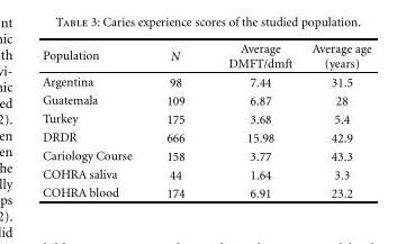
<table><thead><tr><td>Population</td><td>N</td><td>Average DMFT/dmft</td><td>Average age (years)</td></tr></thead><tbody><tr><td>Argentina</td><td>98</td><td>7.44</td><td>31.5</td></tr><tr><td>Guatemala</td><td>109</td><td>6.87</td><td>28</td></tr><tr><td>Turkey</td><td>175</td><td>3.68</td><td>5.4</td></tr><tr><td>DRDR</td><td>666</td><td>15.98</td><td>42.9</td></tr><tr><td>Cariology Course</td><td>158</td><td>3.77</td><td>43.3</td></tr><tr><td>COHRA saliva</td><td>44</td><td>1.64</td><td>3.3</td></tr><tr><td>COHRA blood</td><td>174</td><td>6.91</td><td>23.2</td></tr></tbody></table>